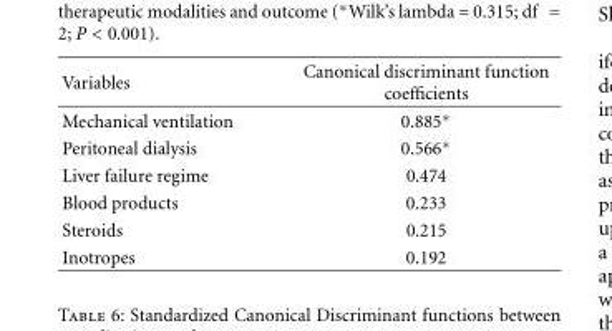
<table><thead><tr><td>Variables</td><td>Canonical discriminant function coefficients</td></tr></thead><tbody><tr><td>Mechanical ventilation</td><td>0.885∗</td></tr><tr><td>Peritoneal dialysis</td><td>0.566∗</td></tr><tr><td>Liver failure regime</td><td>0.474</td></tr><tr><td>Blood products</td><td>0.233</td></tr><tr><td>Steroids</td><td>0.215</td></tr><tr><td>Inotropes</td><td>0.192</td></tr></tbody></table>